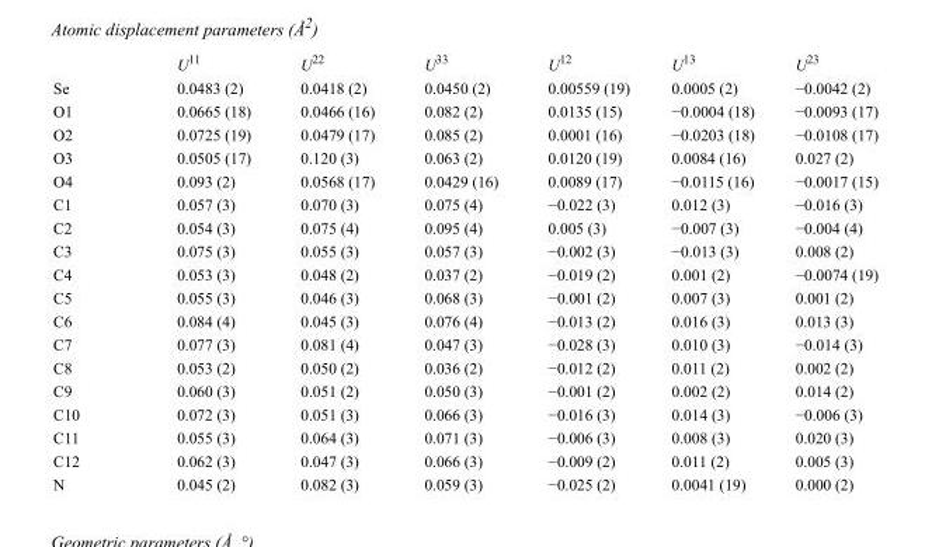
<table><thead><tr><td></td><td>U<sup>11</sup></td><td>U<sup>22</sup></td><td>U<sup>33</sup></td><td>U<sup>12</sup></td><td>U<sup>13</sup></td><td>U<sup>23</sup></td></tr></thead><tbody><tr><td>Se</td><td>0.0483 (2)</td><td>0.0418 (2)</td><td>0.0450 (2)</td><td>0.00559 (19)</td><td>0.0005 (2)</td><td>−0.0042 (2)</td></tr><tr><td>O1</td><td>0.0665 (18)</td><td>0.0466 (16)</td><td>0.082 (2)</td><td>0.0135 (15)</td><td>−0.0004 (18)</td><td>−0.0093 (17)</td></tr><tr><td>O2</td><td>0.0725 (19)</td><td>0.0479 (17)</td><td>0.085 (2)</td><td>0.0001 (16)</td><td>−0.0203 (18)</td><td>−0.0108 (17)</td></tr><tr><td>O3</td><td>0.0505 (17)</td><td>0.120 (3)</td><td>0.063 (2)</td><td>0.0120 (19)</td><td>0.0084 (16)</td><td>0.027 (2)</td></tr><tr><td>O4</td><td>0.093 (2)</td><td>0.0568 (17)</td><td>0.0429 (16)</td><td>0.0089 (17)</td><td>−0.0115 (16)</td><td>−0.0017 (15)</td></tr><tr><td>C1</td><td>0.057 (3)</td><td>0.070 (3)</td><td>0.075 (4)</td><td>−0.022 (3)</td><td>0.012 (3)</td><td>−0.016 (3)</td></tr><tr><td>C2</td><td>0.054 (3)</td><td>0.075 (4)</td><td>0.095 (4)</td><td>0.005 (3)</td><td>−0.007 (3)</td><td>−0.004 (4)</td></tr><tr><td>C3</td><td>0.075 (3)</td><td>0.055 (3)</td><td>0.057 (3)</td><td>−0.002 (3)</td><td>−0.013 (3)</td><td>0.008 (2)</td></tr><tr><td>C4</td><td>0.053 (3)</td><td>0.048 (2)</td><td>0.037 (2)</td><td>−0.019 (2)</td><td>0.001 (2)</td><td>−0.0074 (19)</td></tr><tr><td>C5</td><td>0.055 (3)</td><td>0.046 (3)</td><td>0.068 (3)</td><td>−0.001 (2)</td><td>0.007 (3)</td><td>0.001 (2)</td></tr><tr><td>C6</td><td>0.084 (4)</td><td>0.045 (3)</td><td>0.076 (4)</td><td>−0.013 (2)</td><td>0.016 (3)</td><td>0.013 (3)</td></tr><tr><td>C7</td><td>0.077 (3)</td><td>0.081 (4)</td><td>0.047 (3)</td><td>−0.028 (3)</td><td>0.010 (3)</td><td>−0.014 (3)</td></tr><tr><td>C8</td><td>0.053 (2)</td><td>0.050 (2)</td><td>0.036 (2)</td><td>−0.012 (2)</td><td>0.011 (2)</td><td>0.002 (2)</td></tr><tr><td>C9</td><td>0.060 (3)</td><td>0.051 (2)</td><td>0.050 (3)</td><td>−0.001 (2)</td><td>0.002 (2)</td><td>0.014 (2)</td></tr><tr><td>C10</td><td>0.072 (3)</td><td>0.051 (3)</td><td>0.066 (3)</td><td>−0.016 (3)</td><td>0.014 (3)</td><td>−0.006 (3)</td></tr><tr><td>C11</td><td>0.055 (3)</td><td>0.064 (3)</td><td>0.071 (3)</td><td>−0.006 (3)</td><td>0.008 (3)</td><td>0.020 (3)</td></tr><tr><td>C12</td><td>0.062 (3)</td><td>0.047 (3)</td><td>0.066 (3)</td><td>−0.009 (2)</td><td>0.011 (2)</td><td>0.005 (3)</td></tr><tr><td>N</td><td>0.045 (2)</td><td>0.082 (3)</td><td>0.059 (3)</td><td>−0.025 (2)</td><td>0.0041 (19)</td><td>0.000 (2)</td></tr></tbody></table>